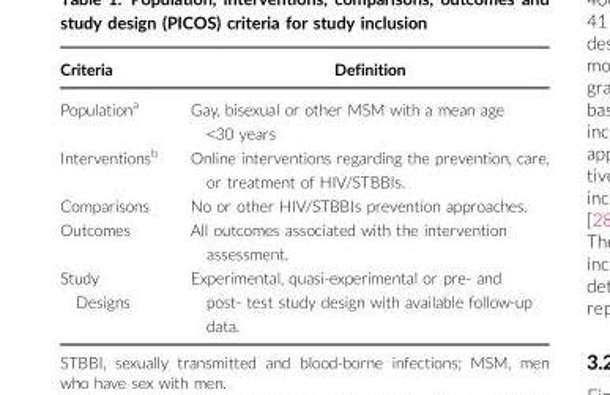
<table><thead><tr><td>Criteria</td><td>Definition</td></tr></thead><tbody><tr><td>Population<sup>a</sup></td><td>Gay, bisexual or other MSM with a mean age &lt;30 years</td></tr><tr><td>Interventions<sup>b</sup></td><td>Online interventions regarding the prevention, care, or treatment of HIV/STBBIs.</td></tr><tr><td>Comparisons</td><td>No or other HIV/STBBIs prevention approaches.</td></tr><tr><td>Outcomes</td><td>All outcomes associated with the intervention assessment.</td></tr><tr><td>Study Designs</td><td>Experimental, quasi-experimental or pre- and post- test study design with available follow-up data.</td></tr></tbody></table>